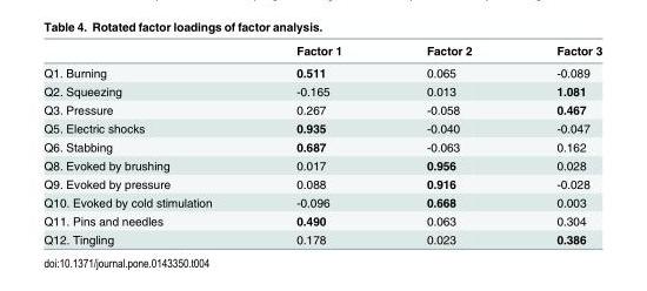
<table><thead><tr><td></td><td>Factor 1</td><td>Factor 2</td><td>Factor 3</td></tr></thead><tbody><tr><td>Q1. Burning</td><td>0.511</td><td>0.065</td><td>-0.089</td></tr><tr><td>Q2. Squeezing</td><td>-0.165</td><td>0.013</td><td>1.081</td></tr><tr><td>Q3. Pressure</td><td>0.267</td><td>-0.058</td><td>0.467</td></tr><tr><td>Q5. Electric shocks</td><td>0.935</td><td>-0.040</td><td>-0.047</td></tr><tr><td>Q6. Stabbing</td><td>0.687</td><td>-0.063</td><td>0.162</td></tr><tr><td>Q8. Evoked by brushing</td><td>0.017</td><td>0.956</td><td>0.028</td></tr><tr><td>Q9. Evoked by pressure</td><td>0.088</td><td>0.916</td><td>-0.028</td></tr><tr><td>Q10. Evoked by cold stimulation</td><td>-0.096</td><td>0.668</td><td>0.003</td></tr><tr><td>Q11. Pins and needles</td><td>0.490</td><td>0.063</td><td>0.304</td></tr><tr><td>Q12. Tingling</td><td>0.178</td><td>0.023</td><td>0.386</td></tr></tbody></table>